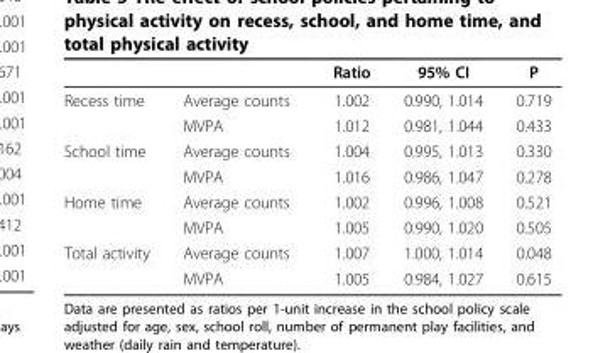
<table><thead><tr><td></td><td></td><td>Ratio</td><td>95% CI</td><td>P</td></tr></thead><tbody><tr><td rowspan="2">Recess time</td><td>Average counts</td><td>1.002</td><td>0.990, 1.014</td><td>0.719</td></tr><tr><td>MVPA</td><td>1.012</td><td>0.981, 1.044</td><td>0.433</td></tr><tr><td rowspan="2">School time</td><td>Average counts</td><td>1.004</td><td>0.995, 1.013</td><td>0.330</td></tr><tr><td>MVPA</td><td>1.016</td><td>0.986, 1.047</td><td>0.278</td></tr><tr><td rowspan="2">Home time</td><td>Average counts</td><td>1.002</td><td>0.996, 1.008</td><td>0.521</td></tr><tr><td>MVPA</td><td>1.005</td><td>0.990, 1.020</td><td>0.505</td></tr><tr><td rowspan="2">Total activity</td><td>Average counts</td><td>1.007</td><td>1.000, 1.014</td><td>0.048</td></tr><tr><td>MVPA</td><td>1.005</td><td>0.984, 1.027</td><td>0.615</td></tr></tbody></table>